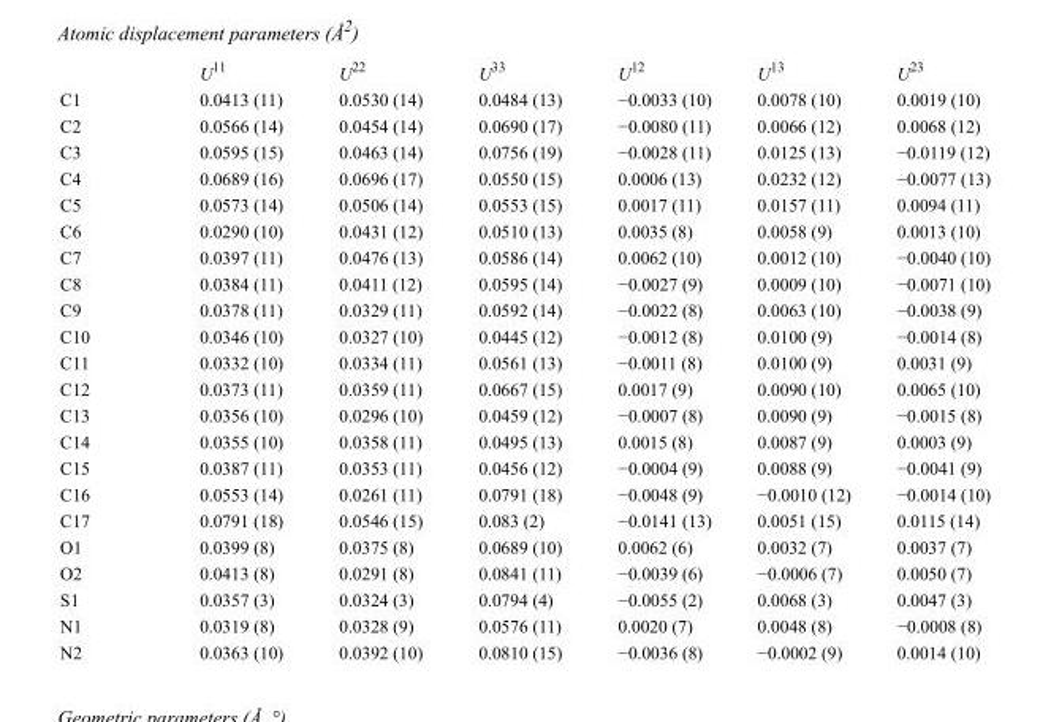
<table><thead><tr><td></td><td>U<sup>11</sup></td><td>U<sup>22</sup></td><td>U<sup>33</sup></td><td>U<sup>12</sup></td><td>U<sup>13</sup></td><td>U<sup>23</sup></td></tr></thead><tbody><tr><td>C1</td><td>0.0413 (11)</td><td>0.0530 (14)</td><td>0.0484 (13)</td><td>−0.0033 (10)</td><td>0.0078 (10)</td><td>0.0019 (10)</td></tr><tr><td>C2</td><td>0.0566 (14)</td><td>0.0454 (14)</td><td>0.0690 (17)</td><td>−0.0080 (11)</td><td>0.0066 (12)</td><td>0.0068 (12)</td></tr><tr><td>C3</td><td>0.0595 (15)</td><td>0.0463 (14)</td><td>0.0756 (19)</td><td>−0.0028 (11)</td><td>0.0125 (13)</td><td>−0.0119 (12)</td></tr><tr><td>C4</td><td>0.0689 (16)</td><td>0.0696 (17)</td><td>0.0550 (15)</td><td>0.0006 (13)</td><td>0.0232 (12)</td><td>−0.0077 (13)</td></tr><tr><td>C5</td><td>0.0573 (14)</td><td>0.0506 (14)</td><td>0.0553 (15)</td><td>0.0017 (11)</td><td>0.0157 (11)</td><td>0.0094 (11)</td></tr><tr><td>C6</td><td>0.0290 (10)</td><td>0.0431 (12)</td><td>0.0510 (13)</td><td>0.0035 (8)</td><td>0.0058 (9)</td><td>0.0013 (10)</td></tr><tr><td>C7</td><td>0.0397 (11)</td><td>0.0476 (13)</td><td>0.0586 (14)</td><td>0.0062 (10)</td><td>0.0012 (10)</td><td>−0.0040 (10)</td></tr><tr><td>C8</td><td>0.0384 (11)</td><td>0.0411 (12)</td><td>0.0595 (14)</td><td>−0.0027 (9)</td><td>0.0009 (10)</td><td>−0.0071 (10)</td></tr><tr><td>C9</td><td>0.0378 (11)</td><td>0.0329 (11)</td><td>0.0592 (14)</td><td>−0.0022 (8)</td><td>0.0063 (10)</td><td>−0.0038 (9)</td></tr><tr><td>C10</td><td>0.0346 (10)</td><td>0.0327 (10)</td><td>0.0445 (12)</td><td>−0.0012 (8)</td><td>0.0100 (9)</td><td>−0.0014 (8)</td></tr><tr><td>C11</td><td>0.0332 (10)</td><td>0.0334 (11)</td><td>0.0561 (13)</td><td>−0.0011 (8)</td><td>0.0100 (9)</td><td>0.0031 (9)</td></tr><tr><td>C12</td><td>0.0373 (11)</td><td>0.0359 (11)</td><td>0.0667 (15)</td><td>0.0017 (9)</td><td>0.0090 (10)</td><td>0.0065 (10)</td></tr><tr><td>C13</td><td>0.0356 (10)</td><td>0.0296 (10)</td><td>0.0459 (12)</td><td>−0.0007 (8)</td><td>0.0090 (9)</td><td>−0.0015 (8)</td></tr><tr><td>C14</td><td>0.0355 (10)</td><td>0.0358 (11)</td><td>0.0495 (13)</td><td>0.0015 (8)</td><td>0.0087 (9)</td><td>0.0003 (9)</td></tr><tr><td>C15</td><td>0.0387 (11)</td><td>0.0353 (11)</td><td>0.0456 (12)</td><td>−0.0004 (9)</td><td>0.0088 (9)</td><td>−0.0041 (9)</td></tr><tr><td>C16</td><td>0.0553 (14)</td><td>0.0261 (11)</td><td>0.0791 (18)</td><td>−0.0048 (9)</td><td>−0.0010 (12)</td><td>−0.0014 (10)</td></tr><tr><td>C17</td><td>0.0791 (18)</td><td>0.0546 (15)</td><td>0.083 (2)</td><td>−0.0141 (13)</td><td>0.0051 (15)</td><td>0.0115 (14)</td></tr><tr><td>O1</td><td>0.0399 (8)</td><td>0.0375 (8)</td><td>0.0689 (10)</td><td>0.0062 (6)</td><td>0.0032 (7)</td><td>0.0037 (7)</td></tr><tr><td>O2</td><td>0.0413 (8)</td><td>0.0291 (8)</td><td>0.0841 (11)</td><td>−0.0039 (6)</td><td>−0.0006 (7)</td><td>0.0050 (7)</td></tr><tr><td>S1</td><td>0.0357 (3)</td><td>0.0324 (3)</td><td>0.0794 (4)</td><td>−0.0055 (2)</td><td>0.0068 (3)</td><td>0.0047 (3)</td></tr><tr><td>N1</td><td>0.0319 (8)</td><td>0.0328 (9)</td><td>0.0576 (11)</td><td>0.0020 (7)</td><td>0.0048 (8)</td><td>−0.0008 (8)</td></tr><tr><td>N2</td><td>0.0363 (10)</td><td>0.0392 (10)</td><td>0.0810 (15)</td><td>−0.0036 (8)</td><td>−0.0002 (9)</td><td>0.0014 (10)</td></tr></tbody></table>